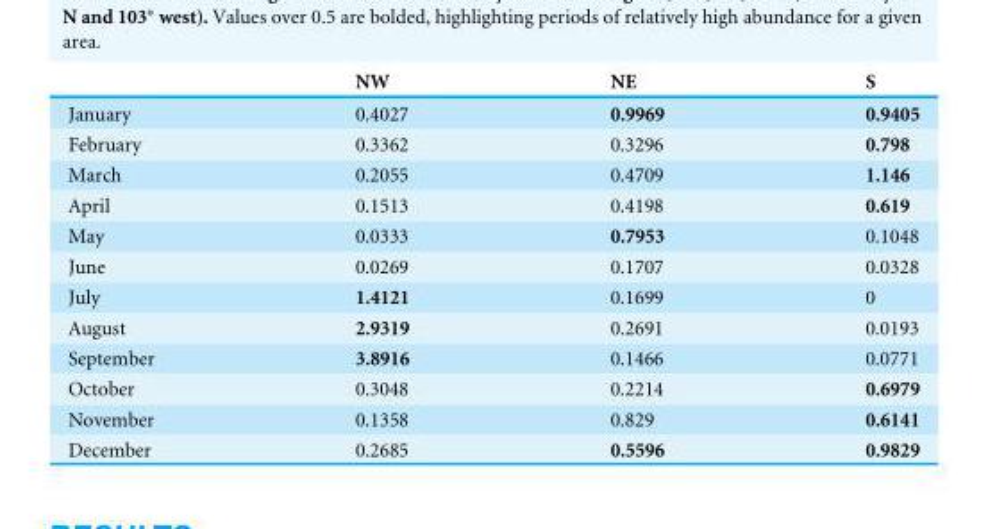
<table><thead><tr><td></td><td>NW</td><td>NE</td><td>S</td></tr></thead><tbody><tr><td>January</td><td>0.4027</td><td>0.9969</td><td>0.9405</td></tr><tr><td>February</td><td>0.3362</td><td>0.3296</td><td>0.798</td></tr><tr><td>March</td><td>0.2055</td><td>0.4709</td><td>1.146</td></tr><tr><td>April</td><td>0.1513</td><td>0.4198</td><td>0.619</td></tr><tr><td>May</td><td>0.0333</td><td>0.7953</td><td>0.1048</td></tr><tr><td>June</td><td>0.0269</td><td>0.1707</td><td>0.0328</td></tr><tr><td>July</td><td>1.4121</td><td>0.1699</td><td>0</td></tr><tr><td>August</td><td>2.9319</td><td>0.2691</td><td>0.0193</td></tr><tr><td>September</td><td>3.8916</td><td>0.1466</td><td>0.0771</td></tr><tr><td>October</td><td>0.3048</td><td>0.2214</td><td>0.6979</td></tr><tr><td>November</td><td>0.1358</td><td>0.829</td><td>0.6141</td></tr><tr><td>December</td><td>0.2685</td><td>0.5596</td><td>0.9829</td></tr></tbody></table>